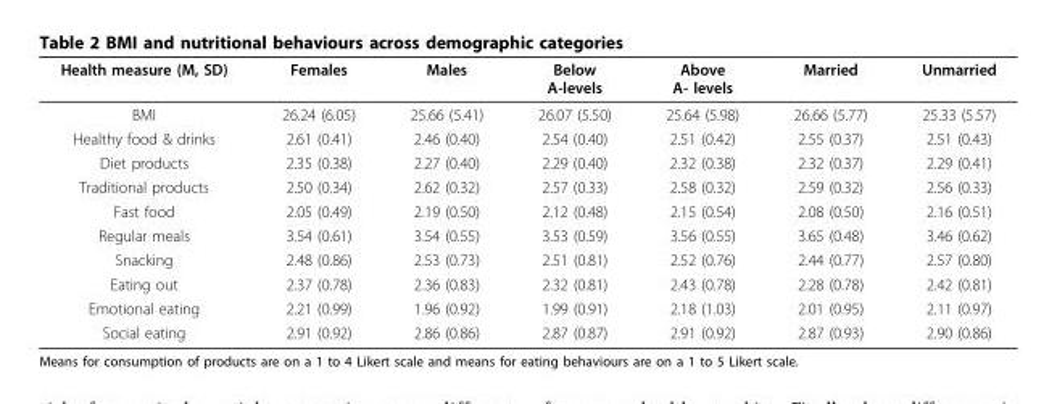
<table><thead><tr><td>Health measure (M, SD)</td><td>Females</td><td>Males</td><td>Below A-levels</td><td>Above A- levels</td><td>Married</td><td>Unmarried</td></tr></thead><tbody><tr><td>BMI</td><td>26.24 (6.05)</td><td>25.66 (5.41)</td><td>26.07 (5.50)</td><td>25.64 (5.98)</td><td>26.66 (5.77)</td><td>25.33 (5.57)</td></tr><tr><td>Healthy food &amp; drinks</td><td>2.61 (0.41)</td><td>2.46 (0.40)</td><td>2.54 (0.40)</td><td>2.51 (0.42)</td><td>2.55 (0.37)</td><td>2.51 (0.43)</td></tr><tr><td>Diet products</td><td>2.35 (0.38)</td><td>2.27 (0.40)</td><td>2.29 (0.40)</td><td>2.32 (0.38)</td><td>2.32 (0.37)</td><td>2.29 (0.41)</td></tr><tr><td>Traditional products</td><td>2.50 (0.34)</td><td>2.62 (0.32)</td><td>2.57 (0.33)</td><td>2.58 (0.32)</td><td>2.59 (0.32)</td><td>2.56 (0.33)</td></tr><tr><td>Fast food</td><td>2.05 (0.49)</td><td>2.19 (0.50)</td><td>2.12 (0.48)</td><td>2.15 (0.54)</td><td>2.08 (0.50)</td><td>2.16 (0.51)</td></tr><tr><td>Regular meals</td><td>3.54 (0.61)</td><td>3.54 (0.55)</td><td>3.53 (0.59)</td><td>3.56 (0.55)</td><td>3.65 (0.48)</td><td>3.46 (0.62)</td></tr><tr><td>Snacking</td><td>2.48 (0.86)</td><td>2.53 (0.73)</td><td>2.51 (0.81)</td><td>2.52 (0.76)</td><td>2.44 (0.77)</td><td>2.57 (0.80)</td></tr><tr><td>Eating out</td><td>2.37 (0.78)</td><td>2.36 (0.83)</td><td>2.32 (0.81)</td><td>2.43 (0.78)</td><td>2.28 (0.78)</td><td>2.42 (0.81)</td></tr><tr><td>Emotional eating</td><td>2.21 (0.99)</td><td>1.96 (0.92)</td><td>1.99 (0.91)</td><td>2.18 (1.03)</td><td>2.01 (0.95)</td><td>2.11 (0.97)</td></tr><tr><td>Social eating</td><td>2.91 (0.92)</td><td>2.86 (0.86)</td><td>2.87 (0.87)</td><td>2.91 (0.92)</td><td>2.87 (0.93)</td><td>2.90 (0.86)</td></tr></tbody></table>